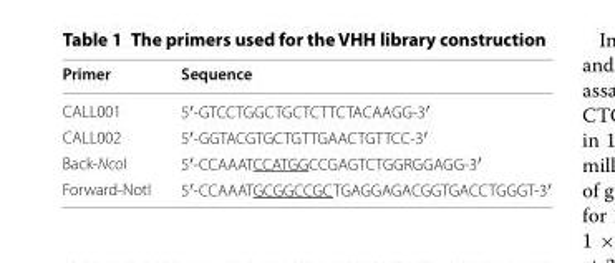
<table><thead><tr><td>Primer</td><td>Sequence</td></tr></thead><tbody><tr><td>CALL001</td><td>5′-GTCCTGGCTGCTCTTCTACAAGG-3′</td></tr><tr><td>CALL002</td><td>5′-GGTACGTGCTGTTGAACTGTTCC-3′</td></tr><tr><td>Back-NcoI</td><td>5′-CCAAATCCATGGCCGAGTCTGGRGGAGG-3′</td></tr><tr><td>Forward-NotI</td><td>5′-CCAAATGCGGCCGCTGAGGAGACGGTGACCTGGGT-3′</td></tr></tbody></table>